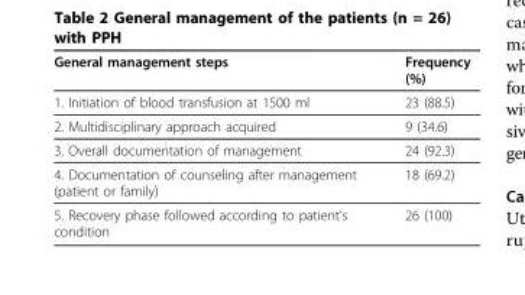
<table><thead><tr><td>General management steps</td><td>Frequency (%)</td></tr></thead><tbody><tr><td>1. Initiation of blood transfusion at 1500 ml</td><td>23 (88.5)</td></tr><tr><td>2. Multidisciplinary approach acquired</td><td>9 (34.6)</td></tr><tr><td>3. Overall documentation of management</td><td>24 (92.3)</td></tr><tr><td>4. Documentation of counseling after management (patient or family)</td><td>18 (69.2)</td></tr><tr><td>5. Recovery phase followed according to patient’s condition</td><td>26 (100)</td></tr></tbody></table>